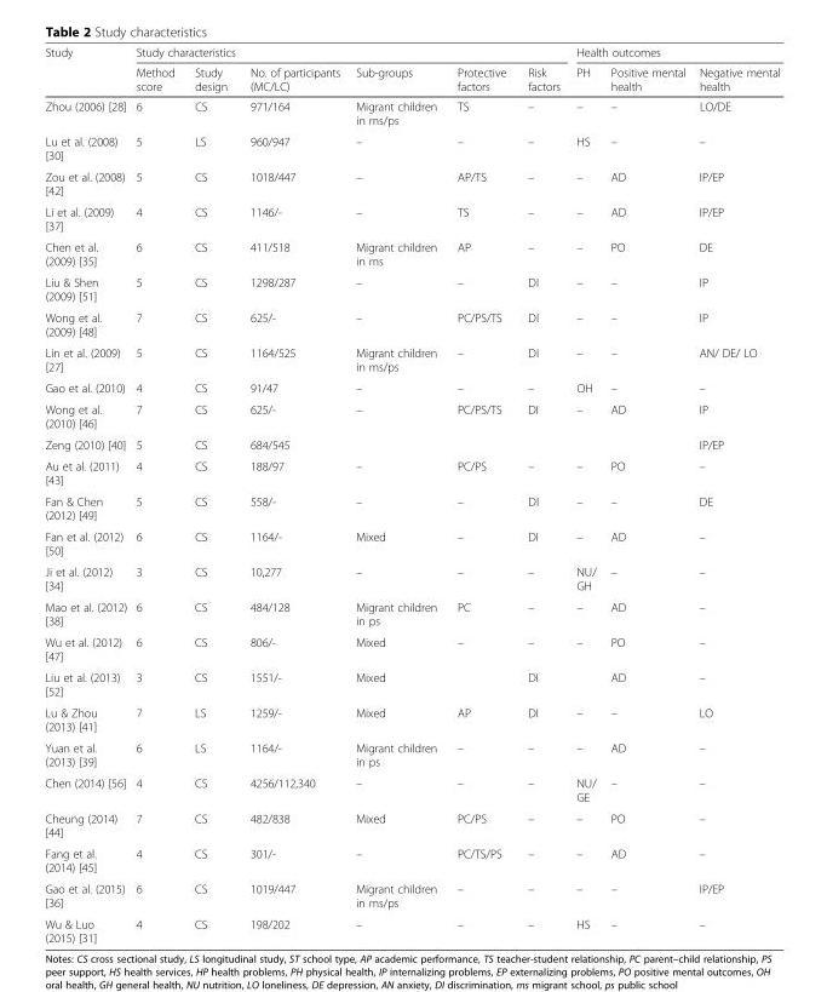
<table><thead><tr><td rowspan="2">Study</td><td colspan="6">Study characteristics</td><td colspan="3">Health outcomes</td></tr><tr><td>Method score</td><td>Study design</td><td>No. of participants (MC/LC)</td><td>Sub-groups</td><td>Protective factors</td><td>Risk factors</td><td>PH</td><td>Positive mental health</td><td>Negative mental health</td></tr></thead><tbody><tr><td>Zhou (2006) [28]</td><td>6</td><td>CS</td><td>971/164</td><td>Migrant children in ms/ps</td><td>TS</td><td>–</td><td>–</td><td>–</td><td>LO/DE</td></tr><tr><td>Lu et al. (2008) [30]</td><td>5</td><td>LS</td><td>960/947</td><td>–</td><td>–</td><td>–</td><td>HS</td><td>–</td><td>–</td></tr><tr><td>Zou et al. (2008) [42]</td><td>5</td><td>CS</td><td>1018/447</td><td>–</td><td>AP/TS</td><td>–</td><td>–</td><td>AD</td><td>IP/EP</td></tr><tr><td>Li et al. (2009) [37]</td><td>4</td><td>CS</td><td>1146/-</td><td>–</td><td>TS</td><td>–</td><td>–</td><td>AD</td><td>IP/EP</td></tr><tr><td>Chen et al. (2009) [35]</td><td>6</td><td>CS</td><td>411/518</td><td>Migrant children in ms</td><td>AP</td><td>–</td><td>–</td><td>PO</td><td>DE</td></tr><tr><td>Liu &amp; Shen (2009) [51]</td><td>5</td><td>CS</td><td>1298/287</td><td>–</td><td>–</td><td>DI</td><td>–</td><td>–</td><td>IP</td></tr><tr><td>Wong et al. (2009) [48]</td><td>7</td><td>CS</td><td>625/-</td><td>–</td><td>PC/PS/TS</td><td>DI</td><td>–</td><td>–</td><td>IP</td></tr><tr><td>Lin et al. (2009) [27]</td><td>5</td><td>CS</td><td>1164/525</td><td>Migrant children in ms/ps</td><td>–</td><td>DI</td><td>–</td><td>–</td><td>AN/ DE/ LO</td></tr><tr><td>Gao et al. (2010)</td><td>4</td><td>CS</td><td>91/47</td><td>–</td><td>–</td><td>–</td><td>OH</td><td>–</td><td>–</td></tr><tr><td>Wong et al. (2010) [46]</td><td>7</td><td>CS</td><td>625/-</td><td>–</td><td>PC/PS/TS</td><td>DI</td><td>–</td><td>AD</td><td>IP</td></tr><tr><td>Zeng (2010) [40]</td><td>5</td><td>CS</td><td>684/545</td><td></td><td></td><td></td><td></td><td></td><td>IP/EP</td></tr><tr><td>Au et al. (2011) [43]</td><td>4</td><td>CS</td><td>188/97</td><td>–</td><td>PC/PS</td><td>–</td><td>–</td><td>PO</td><td>–</td></tr><tr><td>Fan &amp; Chen (2012) [49]</td><td>5</td><td>CS</td><td>558/-</td><td>–</td><td>–</td><td>DI</td><td>–</td><td>–</td><td>DE</td></tr><tr><td>Fan et al. (2012) [50]</td><td>6</td><td>CS</td><td>1164/-</td><td>Mixed</td><td>–</td><td>DI</td><td>–</td><td>AD</td><td>–</td></tr><tr><td>Ji et al. (2012) [34]</td><td>3</td><td>CS</td><td>10,277</td><td>–</td><td>–</td><td>–</td><td>NU/ GH</td><td>–</td><td>–</td></tr><tr><td>Mao et al. (2012) [38]</td><td>6</td><td>CS</td><td>484/128</td><td>Migrant children in ps</td><td>PC</td><td>–</td><td>–</td><td>AD</td><td>–</td></tr><tr><td>Wu et al. (2012) [47]</td><td>6</td><td>CS</td><td>806/-</td><td>Mixed</td><td>–</td><td>–</td><td>–</td><td>PO</td><td>–</td></tr><tr><td>Liu et al. (2013) [52]</td><td>3</td><td>CS</td><td>1551/-</td><td>Mixed</td><td></td><td>DI</td><td></td><td>AD</td><td>–</td></tr><tr><td>Lu &amp; Zhou (2013) [41]</td><td>7</td><td>LS</td><td>1259/-</td><td>Mixed</td><td>AP</td><td>DI</td><td>–</td><td>–</td><td>LO</td></tr><tr><td>Yuan et al. (2013) [39]</td><td>6</td><td>LS</td><td>1164/-</td><td>Migrant children in ps</td><td>–</td><td>–</td><td>–</td><td>AD</td><td>–</td></tr><tr><td>Chen (2014) [56]</td><td>4</td><td>CS</td><td>4256/112,340</td><td>–</td><td>–</td><td>–</td><td>NU/ GE</td><td>–</td><td>–</td></tr><tr><td>Cheung (2014) [44]</td><td>7</td><td>CS</td><td>482/838</td><td>Mixed</td><td>PC/PS</td><td>–</td><td>–</td><td>PO</td><td>–</td></tr><tr><td>Fang et al. (2014) [45]</td><td>4</td><td>CS</td><td>301/-</td><td>–</td><td>PC/TS/PS</td><td>–</td><td>–</td><td>AD</td><td>–</td></tr><tr><td>Gao et al. (2015) [36]</td><td>6</td><td>CS</td><td>1019/447</td><td>Migrant children in ms/ps</td><td>–</td><td>–</td><td>–</td><td>–</td><td>IP/EP</td></tr><tr><td>Wu &amp; Luo (2015) [31]</td><td>4</td><td>CS</td><td>198/202</td><td>–</td><td>–</td><td>–</td><td>HS</td><td>–</td><td>–</td></tr></tbody></table>